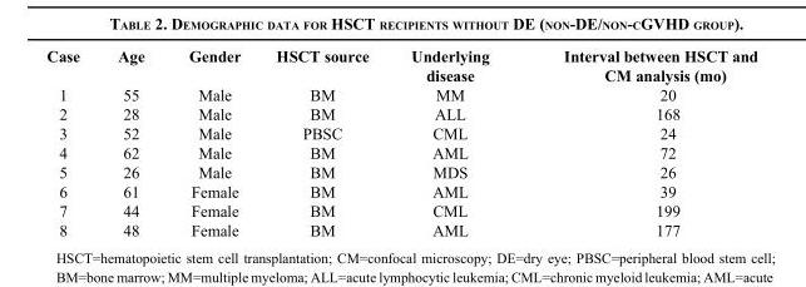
<table><thead><tr><td>Case</td><td>Age</td><td>Gender</td><td>HSCT source</td><td>Underlying disease</td><td>Interval between HSCT and CM analysis (mo)</td></tr></thead><tbody><tr><td>1</td><td>55</td><td>Male</td><td>BM</td><td>MM</td><td>20</td></tr><tr><td>2</td><td>28</td><td>Male</td><td>BM</td><td>ALL</td><td>168</td></tr><tr><td>3</td><td>52</td><td>Male</td><td>PBSC</td><td>CML</td><td>24</td></tr><tr><td>4</td><td>62</td><td>Male</td><td>BM</td><td>AML</td><td>72</td></tr><tr><td>5</td><td>26</td><td>Male</td><td>BM</td><td>MDS</td><td>26</td></tr><tr><td>6</td><td>61</td><td>Female</td><td>BM</td><td>AML</td><td>39</td></tr><tr><td>7</td><td>44</td><td>Female</td><td>BM</td><td>CML</td><td>199</td></tr><tr><td>8</td><td>48</td><td>Female</td><td>BM</td><td>AML</td><td>177</td></tr></tbody></table>